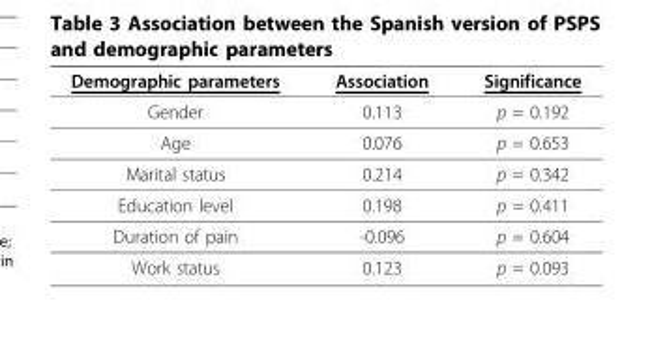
<table><thead><tr><td>Demographic parameters</td><td>Association</td><td>Significance</td></tr></thead><tbody><tr><td>Gender</td><td>0.113</td><td>p = 0.192</td></tr><tr><td>Age</td><td>0.076</td><td>p = 0.653</td></tr><tr><td>Marital status</td><td>0.214</td><td>p = 0.342</td></tr><tr><td>Education level</td><td>0.198</td><td>p = 0.411</td></tr><tr><td>Duration of pain</td><td>-0.096</td><td>p = 0.604</td></tr><tr><td>Work status</td><td>0.123</td><td>p = 0.093</td></tr></tbody></table>